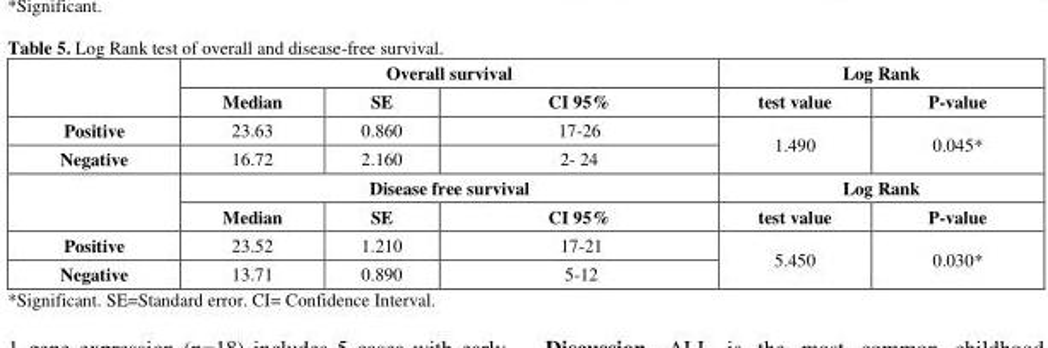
<table><thead><tr><td rowspan="2"></td><td colspan="3">Overall survival</td><td colspan="2">Log Rank</td></tr><tr><td>Median</td><td>SE</td><td>CI 95%</td><td>test value</td><td>P-value</td></tr></thead><tbody><tr><td>Positive</td><td>23.63</td><td>0.860</td><td>17-26</td><td rowspan="2">1.490</td><td rowspan="2">0.045*</td></tr><tr><td rowspan="3">Negative</td><td>16.72</td><td>2.160</td><td>2- 24</td></tr><tr><td colspan="3">Disease free survival</td><td colspan="2">Log Rank</td></tr><tr><td>Median</td><td>SE</td><td>CI 95%</td><td>test value</td><td>P-value</td></tr><tr><td>Positive</td><td>23.52</td><td>1.210</td><td>17-21</td><td rowspan="2">5.450</td><td rowspan="2">0.030*</td></tr><tr><td>Negative</td><td>13.71</td><td>0.890</td><td>5-12</td></tr></tbody></table>